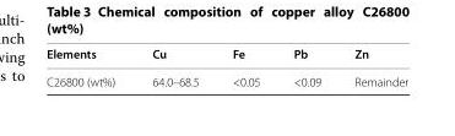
<table><thead><tr><td>Elements</td><td>Cu</td><td>Fe</td><td>Pb</td><td>Zn</td></tr></thead><tbody><tr><td>C26800 (wt%)</td><td>64.0–68.5</td><td>&lt;0.05</td><td>&lt;0.09</td><td>Remainder</td></tr></tbody></table>